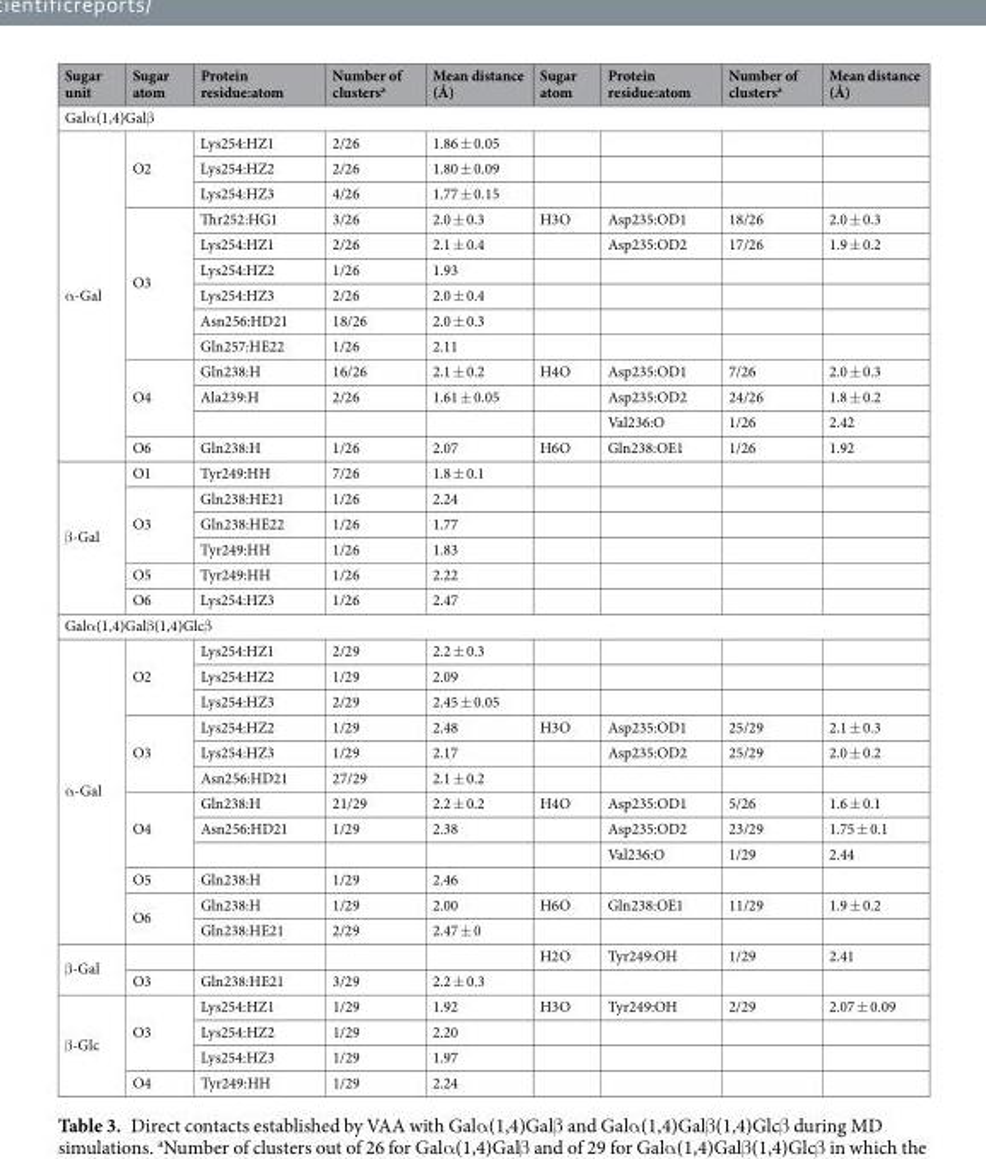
<table><thead><tr><td>Sugar unit</td><td>Sugar atom</td><td>Protein residue:atom</td><td>Number of clusters<sup>a</sup></td><td>Mean distance (Å)</td><td>Sugar atom</td><td>Protein residue:atom</td><td>Number of clusters<sup>a</sup></td><td>Mean distance (Å)</td></tr></thead><tbody><tr><td colspan="9">Galα(1,4)Galβ</td></tr><tr><td rowspan="13">α-Gal</td><td rowspan="3">O2</td><td>Lys254:HZ1</td><td>2/26</td><td>1.86 ± 0.05</td><td></td><td></td><td></td><td></td></tr><tr><td>Lys254:HZ2</td><td>2/26</td><td>1.80 ± 0.09</td><td></td><td></td><td></td><td></td></tr><tr><td>Lys254:HZ3</td><td>4/26</td><td>1.77 ± 0.15</td><td></td><td></td><td></td><td></td></tr><tr><td rowspan="6">O3</td><td>Thr252:HG1</td><td>3/26</td><td>2.0 ± 0.3</td><td>H3O</td><td>Asp235:OD1</td><td>18/26</td><td>2.0 ± 0.3</td></tr><tr><td>Lys254:HZ1</td><td>2/26</td><td>2.1 ± 0.4</td><td></td><td>Asp235:OD2</td><td>17/26</td><td>1.9 ± 0.2</td></tr><tr><td>Lys254:HZ2</td><td>1/26</td><td>1.93</td><td></td><td></td><td></td><td></td></tr><tr><td>Lys254:HZ3</td><td>2/26</td><td>2.0 ± 0.4</td><td></td><td></td><td></td><td></td></tr><tr><td>Asn256:HD21</td><td>18/26</td><td>2.0 ± 0.3</td><td></td><td></td><td></td><td></td></tr><tr><td>Gln257:HE22</td><td>1/26</td><td>2.11</td><td></td><td></td><td></td><td></td></tr><tr><td rowspan="3">O4</td><td>Gln238:H</td><td>16/26</td><td>2.1 ± 0.2</td><td>H4O</td><td>Asp235:OD1</td><td>7/26</td><td>2.0 ± 0.3</td></tr><tr><td>Ala239:H</td><td>2/26</td><td>1.61 ± 0.05</td><td></td><td>Asp235:OD2</td><td>24/26</td><td>1.8 ± 0.2</td></tr><tr><td></td><td></td><td></td><td></td><td>Val236:O</td><td>1/26</td><td>2.42</td></tr><tr><td>O6</td><td>Gln238:H</td><td>1/26</td><td>2.07</td><td>H6O</td><td>Gln238:OE1</td><td>1/26</td><td>1.92</td></tr><tr><td rowspan="6">β-Gal</td><td>O1</td><td>Tyr249:HH</td><td>7/26</td><td>1.8 ± 0.1</td><td></td><td></td><td></td><td></td></tr><tr><td rowspan="3">O3</td><td>Gln238:HE21</td><td>1/26</td><td>2.24</td><td></td><td></td><td></td><td></td></tr><tr><td>Gln238:HE22</td><td>1/26</td><td>1.77</td><td></td><td></td><td></td><td></td></tr><tr><td>Tyr249:HH</td><td>1/26</td><td>1.83</td><td></td><td></td><td></td><td></td></tr><tr><td>O5</td><td>Tyr249:HH</td><td>1/26</td><td>2.22</td><td></td><td></td><td></td><td></td></tr><tr><td>O6</td><td>Lys254:HZ3</td><td>1/26</td><td>2.47</td><td></td><td></td><td></td><td></td></tr><tr><td colspan="9">Galα(1,4)Galβ(1,4)Glcβ</td></tr><tr><td rowspan="12">α-Gal</td><td rowspan="3">O2</td><td>Lys254:HZ1</td><td>2/29</td><td>2.2 ± 0.3</td><td></td><td></td><td></td><td></td></tr><tr><td>Lys254:HZ2</td><td>1/29</td><td>2.09</td><td></td><td></td><td></td><td></td></tr><tr><td>Lys254:HZ3</td><td>2/29</td><td>2.45 ± 0.05</td><td></td><td></td><td></td><td></td></tr><tr><td rowspan="3">O3</td><td>Lys254:HZ2</td><td>1/29</td><td>2.48</td><td>H3O</td><td>Asp235:OD1</td><td>25/29</td><td>2.1 ± 0.3</td></tr><tr><td>Lys254:HZ3</td><td>1/29</td><td>2.17</td><td></td><td>Asp235:OD2</td><td>25/29</td><td>2.0 ± 0.2</td></tr><tr><td>Asn256:HD21</td><td>27/29</td><td>2.1 ± 0.2</td><td></td><td></td><td></td><td></td></tr><tr><td rowspan="3">O4</td><td>Gln238:H</td><td>21/29</td><td>2.2 ± 0.2</td><td>H4O</td><td>Asp235:OD1</td><td>5/26</td><td>1.6 ± 0.1</td></tr><tr><td>Asn256:HD21</td><td>1/29</td><td>2.38</td><td></td><td>Asp235:OD2</td><td>23/29</td><td>1.75 ± 0.1</td></tr><tr><td></td><td></td><td></td><td></td><td>Val236:O</td><td>1/29</td><td>2.44</td></tr><tr><td>O5</td><td>Gln238:H</td><td>1/29</td><td>2.46</td><td></td><td></td><td></td><td></td></tr><tr><td rowspan="2">O6</td><td>Gln238:H</td><td>1/29</td><td>2.00</td><td>H6O</td><td>Gln238:OE1</td><td>11/29</td><td>1.9 ± 0.2</td></tr><tr><td>Gln238:HE21</td><td>2/29</td><td>2.47 ± 0</td><td></td><td></td><td></td><td></td></tr><tr><td rowspan="2">β-Gal</td><td></td><td></td><td></td><td></td><td>H2O</td><td>Tyr249:OH</td><td>1/29</td><td>2.41</td></tr><tr><td>O3</td><td>Gln238:HE21</td><td>3/29</td><td>2.2 ± 0.3</td><td></td><td></td><td></td><td></td></tr><tr><td rowspan="4">β-Glc</td><td rowspan="3">O3</td><td>Lys254:HZ1</td><td>1/29</td><td>1.92</td><td>H3O</td><td>Tyr249:OH</td><td>2/29</td><td>2.07 ± 0.09</td></tr><tr><td>Lys254:HZ2</td><td>1/29</td><td>2.20</td><td></td><td></td><td></td><td></td></tr><tr><td>Lys254:HZ3</td><td>1/29</td><td>1.97</td><td></td><td></td><td></td><td></td></tr><tr><td>O4</td><td>Tyr249:HH</td><td>1/29</td><td>2.24</td><td></td><td></td><td></td><td></td></tr></tbody></table>